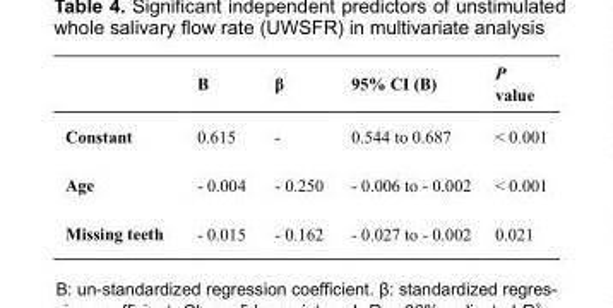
<table><thead><tr><td></td><td>B</td><td>β</td><td>95% CI (B)</td><td>P value</td></tr></thead><tbody><tr><td>Constant</td><td>0.615</td><td>-</td><td>0.544 to 0.687</td><td>&lt; 0.001</td></tr><tr><td>Age</td><td>- 0.004</td><td>- 0.250</td><td>- 0.006 to - 0.002</td><td>&lt; 0.001</td></tr><tr><td>Missing teeth</td><td>- 0.015</td><td>- 0.162</td><td>- 0.027 to - 0.002</td><td>0.021</td></tr></tbody></table>